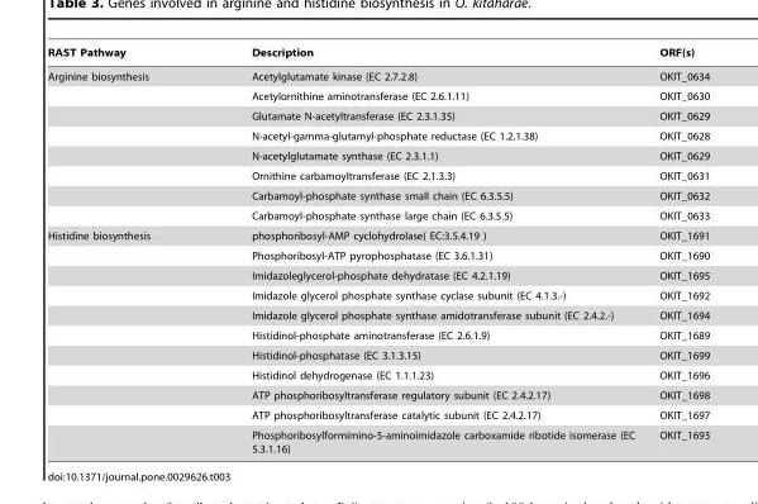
<table><thead><tr><td>RAST Pathway</td><td>Description</td><td>ORF(s)</td></tr></thead><tbody><tr><td rowspan="8">Arginine biosynthesis</td><td>Acetylglutamate kinase (EC 2.7.2.8)</td><td>OKIT_0634</td></tr><tr><td>Acetylornithine aminotransferase (EC 2.6.1.11)</td><td>OKIT_0630</td></tr><tr><td>Glutamate N-acetyltransferase (EC 2.3.1.35)</td><td>OKIT_0629</td></tr><tr><td>N-acetyl-gamma-glutamyl-phosphate reductase (EC 1.2.1.38)</td><td>OKIT_0628</td></tr><tr><td>N-acetylglutamate synthase (EC 2.3.1.1)</td><td>OKIT_0629</td></tr><tr><td>Ornithine carbamoyltransferase (EC 2.1.3.3)</td><td>OKIT_0631</td></tr><tr><td>Carbamoyl-phosphate synthase small chain (EC 6.3.5.5)</td><td>OKIT_0632</td></tr><tr><td>Carbamoyl-phosphate synthase large chain (EC 6.3.5.5)</td><td>OKIT_0633</td></tr><tr><td rowspan="11">Histidine biosynthesis</td><td>phosphoribosyl-AMP cyclohydrolase( EC:3.5.4.19 )</td><td>OKIT_1691</td></tr><tr><td>Phosphoribosyl-ATP pyrophosphatase (EC 3.6.1.31)</td><td>OKIT_1690</td></tr><tr><td>Imidazoleglycerol-phosphate dehydratase (EC 4.2.1.19)</td><td>OKIT_1695</td></tr><tr><td>Imidazole glycerol phosphate synthase cyclase subunit (EC 4.1.3.-)</td><td>OKIT_1692</td></tr><tr><td>Imidazole glycerol phosphate synthase amidotransferase subunit (EC 2.4.2.-)</td><td>OKIT_1694</td></tr><tr><td>Histidinol-phosphate aminotransferase (EC 2.6.1.9)</td><td>OKIT_1689</td></tr><tr><td>Histidinol-phosphatase (EC 3.1.3.15)</td><td>OKIT_1699</td></tr><tr><td>Histidinol dehydrogenase (EC 1.1.1.23)</td><td>OKIT_1696</td></tr><tr><td>ATP phosphoribosyltransferase regulatory subunit (EC 2.4.2.17)</td><td>OKIT_1698</td></tr><tr><td>ATP phosphoribosyltransferase catalytic subunit (EC 2.4.2.17)</td><td>OKIT_1697</td></tr><tr><td>Phosphoribosylformimino-5-aminoimidazole carboxamide ribotide isomerase (EC 5.3.1.16)</td><td>OKIT_1693</td></tr></tbody></table>